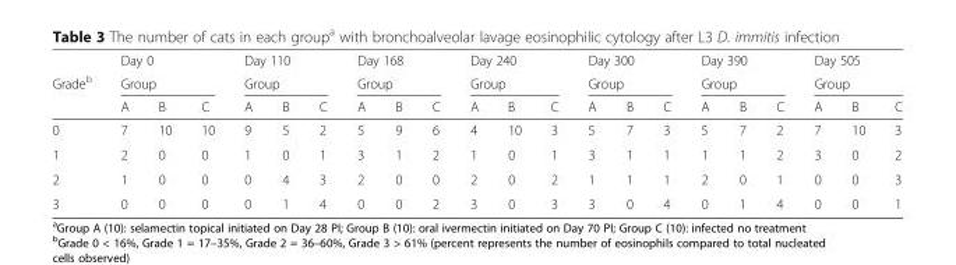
<table><thead><tr><td rowspan="3">Grade<sup>b</sup></td><td rowspan="2" colspan="3">Day 0 Group</td><td rowspan="2" colspan="3">Day 110 Group</td><td rowspan="2" colspan="3">Day 168 Group</td><td rowspan="2" colspan="3">Day 240 Group</td><td rowspan="2" colspan="3">Day 300 Group</td><td rowspan="2" colspan="3">Day 390 Group</td><td rowspan="2" colspan="3">Day 505 Group</td></tr><tr></tr><tr><td>A</td><td>B</td><td>C</td><td>A</td><td>B</td><td>C</td><td>A</td><td>B</td><td>C</td><td>A</td><td>B</td><td>C</td><td>A</td><td>B</td><td>C</td><td>A</td><td>B</td><td>C</td><td>A</td><td>B</td><td>C</td></tr></thead><tbody><tr><td>0</td><td>7</td><td>10</td><td>10</td><td>9</td><td>5</td><td>2</td><td>5</td><td>9</td><td>6</td><td>4</td><td>10</td><td>3</td><td>5</td><td>7</td><td>3</td><td>5</td><td>7</td><td>2</td><td>7</td><td>10</td><td>3</td></tr><tr><td>1</td><td>2</td><td>0</td><td>0</td><td>1</td><td>0</td><td>1</td><td>3</td><td>1</td><td>2</td><td>1</td><td>0</td><td>1</td><td>3</td><td>1</td><td>1</td><td>1</td><td>1</td><td>2</td><td>3</td><td>0</td><td>2</td></tr><tr><td>2</td><td>1</td><td>0</td><td>0</td><td>0</td><td>4</td><td>3</td><td>2</td><td>0</td><td>0</td><td>2</td><td>0</td><td>2</td><td>1</td><td>1</td><td>1</td><td>2</td><td>0</td><td>1</td><td>0</td><td>0</td><td>3</td></tr><tr><td>3</td><td>0</td><td>0</td><td>0</td><td>0</td><td>1</td><td>4</td><td>0</td><td>0</td><td>2</td><td>3</td><td>0</td><td>3</td><td>3</td><td>0</td><td>4</td><td>0</td><td>1</td><td>4</td><td>0</td><td>0</td><td>1</td></tr></tbody></table>